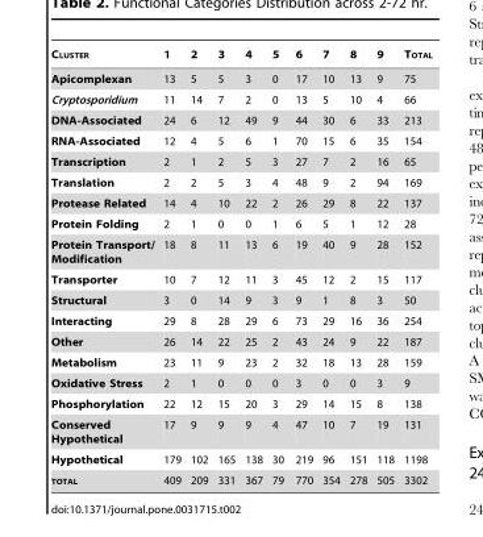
<table><thead><tr><td>CLUSTER</td><td>1</td><td>2</td><td>3</td><td>4</td><td>5</td><td>6</td><td>7</td><td>8</td><td>9</td><td>TOTAL</td></tr></thead><tbody><tr><td>Apicomplexan</td><td>13</td><td>5</td><td>5</td><td>3</td><td>0</td><td>17</td><td>10</td><td>13</td><td>9</td><td>75</td></tr><tr><td>Cryptosporidium</td><td>11</td><td>14</td><td>7</td><td>2</td><td>0</td><td>13</td><td>5</td><td>10</td><td>4</td><td>66</td></tr><tr><td>DNA-Associated</td><td>24</td><td>6</td><td>12</td><td>49</td><td>9</td><td>44</td><td>30</td><td>6</td><td>33</td><td>213</td></tr><tr><td>RNA-Associated</td><td>12</td><td>4</td><td>5</td><td>6</td><td>1</td><td>70</td><td>15</td><td>6</td><td>35</td><td>154</td></tr><tr><td>Transcription</td><td>2</td><td>1</td><td>2</td><td>5</td><td>3</td><td>27</td><td>7</td><td>2</td><td>16</td><td>65</td></tr><tr><td>Translation</td><td>2</td><td>2</td><td>5</td><td>3</td><td>4</td><td>48</td><td>9</td><td>2</td><td>94</td><td>169</td></tr><tr><td>Protease Related</td><td>14</td><td>4</td><td>10</td><td>22</td><td>2</td><td>26</td><td>29</td><td>8</td><td>22</td><td>137</td></tr><tr><td>Protein Folding</td><td>2</td><td>1</td><td>0</td><td>0</td><td>1</td><td>6</td><td>5</td><td>1</td><td>12</td><td>28</td></tr><tr><td>Protein Transport/ Modification</td><td>18</td><td>8</td><td>11</td><td>13</td><td>6</td><td>19</td><td>40</td><td>9</td><td>28</td><td>152</td></tr><tr><td>Transporter</td><td>10</td><td>7</td><td>12</td><td>11</td><td>3</td><td>45</td><td>12</td><td>2</td><td>15</td><td>117</td></tr><tr><td>Structural</td><td>3</td><td>0</td><td>14</td><td>9</td><td>3</td><td>9</td><td>1</td><td>8</td><td>3</td><td>50</td></tr><tr><td>Interacting</td><td>29</td><td>8</td><td>28</td><td>29</td><td>6</td><td>73</td><td>29</td><td>16</td><td>36</td><td>254</td></tr><tr><td>Other</td><td>26</td><td>14</td><td>22</td><td>25</td><td>2</td><td>43</td><td>24</td><td>9</td><td>22</td><td>187</td></tr><tr><td>Metabolism</td><td>23</td><td>11</td><td>9</td><td>23</td><td>2</td><td>32</td><td>18</td><td>13</td><td>28</td><td>159</td></tr><tr><td>Oxidative Stress</td><td>2</td><td>1</td><td>0</td><td>0</td><td>0</td><td>3</td><td>0</td><td>0</td><td>3</td><td>9</td></tr><tr><td>Phosphorylation</td><td>22</td><td>12</td><td>15</td><td>20</td><td>3</td><td>29</td><td>14</td><td>15</td><td>8</td><td>138</td></tr><tr><td>Conserved Hypothetical</td><td>17</td><td>9</td><td>9</td><td>9</td><td>4</td><td>47</td><td>10</td><td>7</td><td>19</td><td>131</td></tr><tr><td>Hypothetical</td><td>179</td><td>102</td><td>165</td><td>138</td><td>30</td><td>219</td><td>96</td><td>151</td><td>118</td><td>1198</td></tr><tr><td>TOTAL</td><td>409</td><td>209</td><td>331</td><td>367</td><td>79</td><td>770</td><td>354</td><td>278</td><td>505</td><td>3302</td></tr></tbody></table>